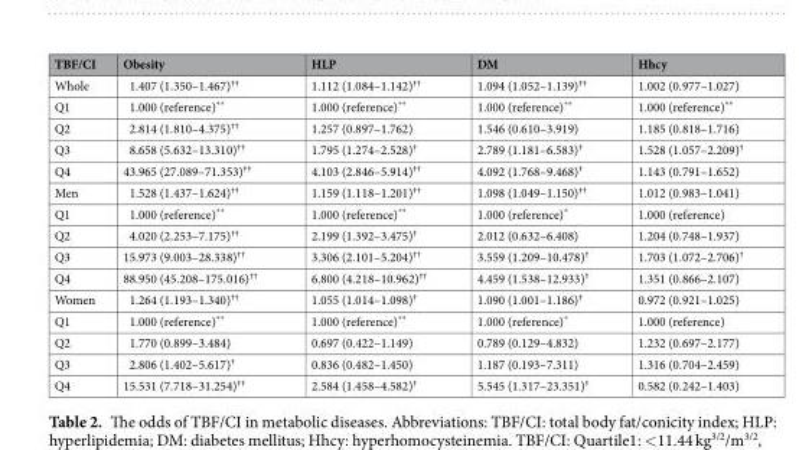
<table><thead><tr><td>TBF/CI</td><td>Obesity</td><td>HLP</td><td>DM</td><td>Hhcy</td></tr></thead><tbody><tr><td>Whole</td><td>1.407 (1.350–1.467)<sup>††</sup></td><td>1.112 (1.084–1.142)<sup>††</sup></td><td>1.094 (1.052–1.139)<sup>††</sup></td><td>1.002 (0.977–1.027)</td></tr><tr><td>Q1</td><td>1.000 (reference)**</td><td>1.000 (reference)**</td><td>1.000 (reference)**</td><td>1.000 (reference)**</td></tr><tr><td>Q2</td><td>2.814 (1.810–4.375)<sup>††</sup></td><td>1.257 (0.897–1.762)</td><td>1.546 (0.610–3.919)</td><td>1.185 (0.818–1.716)</td></tr><tr><td>Q3</td><td>8.658 (5.632–13.310)<sup>††</sup></td><td>1.795 (1.274–2.528)<sup>†</sup></td><td>2.789 (1.181–6.583)<sup>†</sup></td><td>1.528 (1.057–2.209)<sup>†</sup></td></tr><tr><td>Q4</td><td>43.965 (27.089–71.353)<sup>††</sup></td><td>4.103 (2.846–5.914)<sup>††</sup></td><td>4.092 (1.768–9.468)<sup>†</sup></td><td>1.143 (0.791–1.652)</td></tr><tr><td>Men</td><td>1.528 (1.437–1.624)<sup>††</sup></td><td>1.159 (1.118–1.201)<sup>††</sup></td><td>1.098 (1.049–1.150)<sup>††</sup></td><td>1.012 (0.983–1.041)</td></tr><tr><td>Q1</td><td>1.000 (reference)**</td><td>1.000 (reference)**</td><td>1.000 (reference)*</td><td>1.000 (reference)</td></tr><tr><td>Q2</td><td>4.020 (2.253–7.175)<sup>††</sup></td><td>2.199 (1.392–3.475)<sup>†</sup></td><td>2.012 (0.632–6.408)</td><td>1.204 (0.748–1.937)</td></tr><tr><td>Q3</td><td>15.973 (9.003–28.338)<sup>††</sup></td><td>3.306 (2.101–5.204)<sup>††</sup></td><td>3.559 (1.209–10.478)<sup>†</sup></td><td>1.703 (1.072–2.706)<sup>†</sup></td></tr><tr><td>Q4</td><td>88.950 (45.208–175.016)<sup>††</sup></td><td>6.800 (4.218–10.962)<sup>††</sup></td><td>4.459 (1.538–12.933)<sup>†</sup></td><td>1.351 (0.866–2.107)</td></tr><tr><td>Women</td><td>1.264 (1.193–1.340)<sup>††</sup></td><td>1.055 (1.014–1.098)<sup>†</sup></td><td>1.090 (1.001–1.186)<sup>†</sup></td><td>0.972 (0.921–1.025)</td></tr><tr><td>Q1</td><td>1.000 (reference)**</td><td>1.000 (reference)**</td><td>1.000 (reference)*</td><td>1.000 (reference)</td></tr><tr><td>Q2</td><td>1.770 (0.899–3.484)</td><td>0.697 (0.422–1.149)</td><td>0.789 (0.129–4.832)</td><td>1.232 (0.697–2.177)</td></tr><tr><td>Q3</td><td>2.806 (1.402–5.617)<sup>†</sup></td><td>0.836 (0.482–1.450)</td><td>1.187 (0.193–7.311)</td><td>1.316 (0.704–2.459)</td></tr><tr><td>Q4</td><td>15.531 (7.718–31.254)<sup>††</sup></td><td>2.584 (1.458–4.582)<sup>†</sup></td><td>5.545 (1.317–23.351)<sup>†</sup></td><td>0.582 (0.242–1.403)</td></tr></tbody></table>